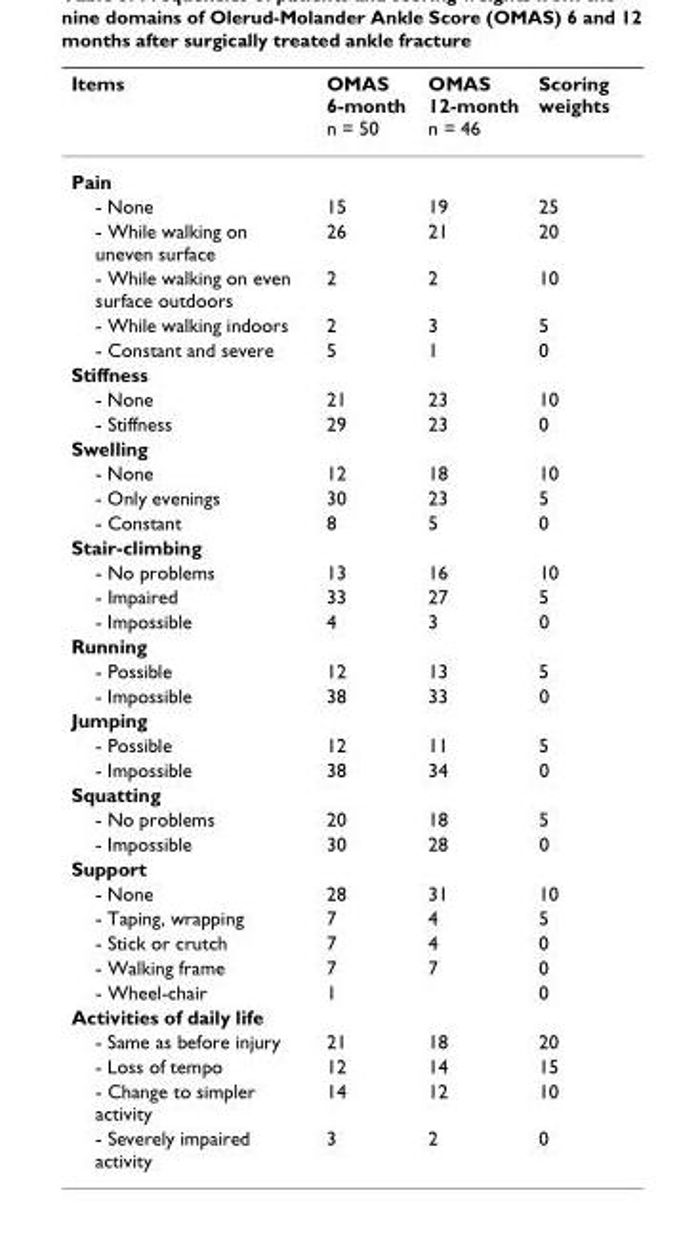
<table><thead><tr><td>Items</td><td>OMAS 6-month n = 50</td><td>OMAS 12-month n = 46</td><td>Scoring weights</td></tr></thead><tbody><tr><td colspan="4">Pain</td></tr><tr><td>- None</td><td>15</td><td>19</td><td>25</td></tr><tr><td>- While walking on uneven surface</td><td>26</td><td>21</td><td>20</td></tr><tr><td>- While walking on even surface outdoors</td><td>2</td><td>2</td><td>10</td></tr><tr><td>- While walking indoors</td><td>2</td><td>3</td><td>5</td></tr><tr><td>- Constant and severe</td><td>5</td><td>1</td><td>0</td></tr><tr><td colspan="4">Stiffness</td></tr><tr><td>- None</td><td>21</td><td>23</td><td>10</td></tr><tr><td>- Stiffness</td><td>29</td><td>23</td><td>0</td></tr><tr><td colspan="4">Swelling</td></tr><tr><td>- None</td><td>12</td><td>18</td><td>10</td></tr><tr><td>- Only evenings</td><td>30</td><td>23</td><td>5</td></tr><tr><td>- Constant</td><td>8</td><td>5</td><td>0</td></tr><tr><td colspan="4">Stair-climbing</td></tr><tr><td>- No problems</td><td>13</td><td>16</td><td>10</td></tr><tr><td>- Impaired</td><td>33</td><td>27</td><td>5</td></tr><tr><td>- Impossible</td><td>4</td><td>3</td><td>0</td></tr><tr><td colspan="4">Running</td></tr><tr><td>- Possible</td><td>12</td><td>13</td><td>5</td></tr><tr><td>- Impossible</td><td>38</td><td>33</td><td>0</td></tr><tr><td colspan="4">Jumping</td></tr><tr><td>- Possible</td><td>12</td><td>11</td><td>5</td></tr><tr><td>- Impossible</td><td>38</td><td>34</td><td>0</td></tr><tr><td colspan="4">Squatting</td></tr><tr><td>- No problems</td><td>20</td><td>18</td><td>5</td></tr><tr><td>- Impossible</td><td>30</td><td>28</td><td>0</td></tr><tr><td colspan="4">Support</td></tr><tr><td>- None</td><td>28</td><td>31</td><td>10</td></tr><tr><td>- Taping, wrapping</td><td>7</td><td>4</td><td>5</td></tr><tr><td>- Stick or crutch</td><td>7</td><td>4</td><td>0</td></tr><tr><td>- Walking frame</td><td>7</td><td>7</td><td>0</td></tr><tr><td>- Wheel-chair</td><td>1</td><td></td><td>0</td></tr><tr><td colspan="4">Activities of daily life</td></tr><tr><td>- Same as before injury</td><td>21</td><td>18</td><td>20</td></tr><tr><td>- Loss of tempo</td><td>12</td><td>14</td><td>15</td></tr><tr><td>- Change to simpler activity</td><td>14</td><td>12</td><td>10</td></tr><tr><td>- Severely impaired activity</td><td>3</td><td>2</td><td>0</td></tr></tbody></table>